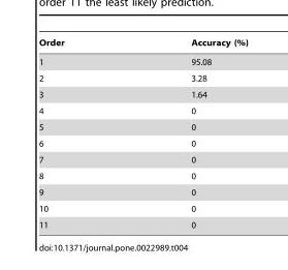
<table><thead><tr><td>Order</td><td>Accuracy (%)</td></tr></thead><tbody><tr><td>1</td><td>95.08</td></tr><tr><td>2</td><td>3.28</td></tr><tr><td>3</td><td>1.64</td></tr><tr><td>4</td><td>0</td></tr><tr><td>5</td><td>0</td></tr><tr><td>6</td><td>0</td></tr><tr><td>7</td><td>0</td></tr><tr><td>8</td><td>0</td></tr><tr><td>9</td><td>0</td></tr><tr><td>10</td><td>0</td></tr><tr><td>11</td><td>0</td></tr></tbody></table>